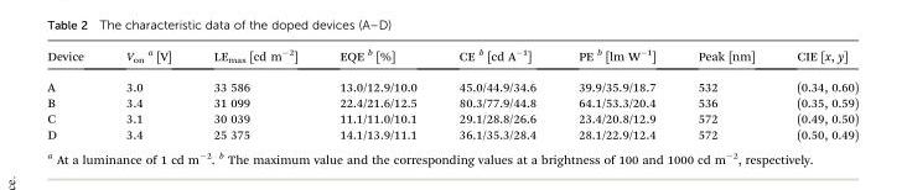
<table><thead><tr><td>Device</td><td>V<sub>on</sub> <sup>a</sup> [V]</td><td>LE<sub>max</sub> [cd m<sup>–2</sup>]</td><td>EQE <sup>b</sup> [%]</td><td>CE <sup>b</sup> [cd A<sup>–1</sup>]</td><td>PE <sup>b</sup> [lm W<sup>–1</sup>]</td><td>Peak [nm]</td><td>CIE [x, y]</td></tr></thead><tbody><tr><td>A</td><td>3.0</td><td>33 586</td><td>13.0/12.9/10.0</td><td>45.0/44.9/34.6</td><td>39.9/35.9/18.7</td><td>532</td><td>(0.34, 0.60)</td></tr><tr><td>B</td><td>3.4</td><td>31 099</td><td>22.4/21.6/12.5</td><td>80.3/77.9/44.8</td><td>64.1/53.3/20.4</td><td>536</td><td>(0.35, 0.59)</td></tr><tr><td>C</td><td>3.1</td><td>30 039</td><td>11.1/11.0/10.1</td><td>29.1/28.8/26.6</td><td>23.4/20.8/12.9</td><td>572</td><td>(0.49, 0.50)</td></tr><tr><td>D</td><td>3.4</td><td>25 375</td><td>14.1/13.9/11.1</td><td>36.1/35.3/28.4</td><td>28.1/22.9/12.4</td><td>572</td><td>(0.50, 0.49)</td></tr></tbody></table>